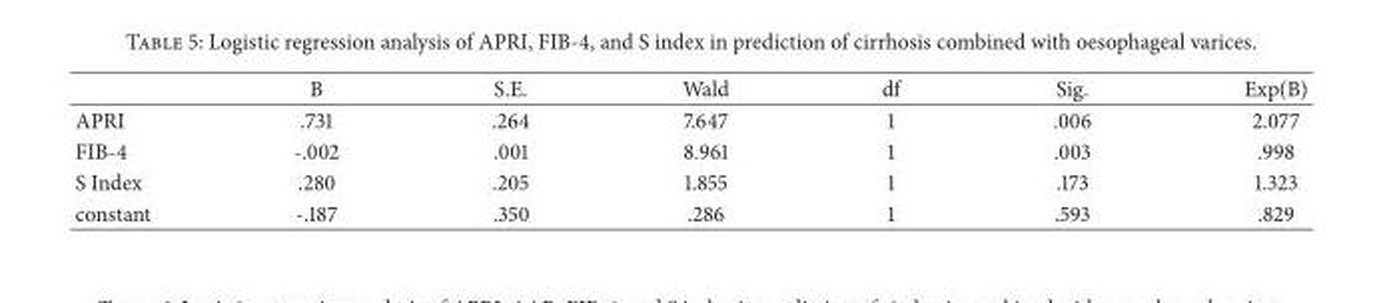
<table><thead><tr><td></td><td>B</td><td>S.E.</td><td>Wald</td><td>df</td><td>Sig.</td><td>Exp(B)</td></tr></thead><tbody><tr><td>APRI</td><td>.731</td><td>.264</td><td>7.647</td><td>1</td><td>.006</td><td>2.077</td></tr><tr><td>FIB-4</td><td>-.002</td><td>.001</td><td>8.961</td><td>1</td><td>.003</td><td>.998</td></tr><tr><td>S Index</td><td>.280</td><td>.205</td><td>1.855</td><td>1</td><td>.173</td><td>1.323</td></tr><tr><td>constant</td><td>-.187</td><td>.350</td><td>.286</td><td>1</td><td>.593</td><td>.829</td></tr></tbody></table>